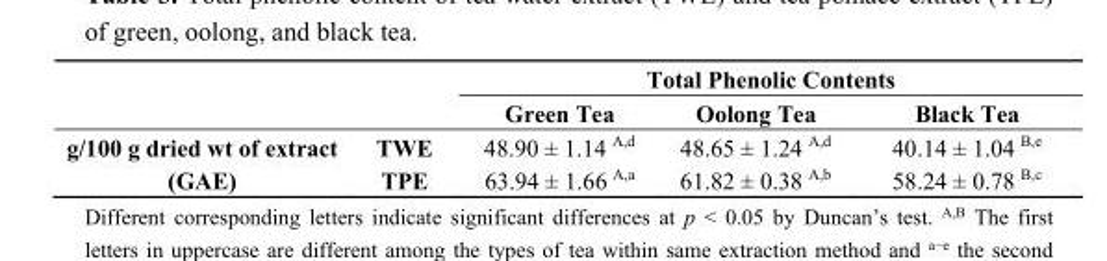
<table><thead><tr><td rowspan="2"></td><td rowspan="2"></td><td colspan="3">Total Phenolic Contents</td></tr><tr><td>Green Tea</td><td>Oolong Tea</td><td>Black Tea</td></tr></thead><tbody><tr><td>g/100 g dried wt of extract</td><td>TWE</td><td>48.90 ± 1.14 <sup>A,d</sup></td><td>48.65 ± 1.24 <sup>A,d</sup></td><td>40.14 ± 1.04 <sup>B,e</sup></td></tr><tr><td>(GAE)</td><td>TPE</td><td>63.94 ± 1.66 <sup>A,a</sup></td><td>61.82 ± 0.38 <sup>A,b</sup></td><td>58.24 ± 0.78 <sup>B,c</sup></td></tr></tbody></table>